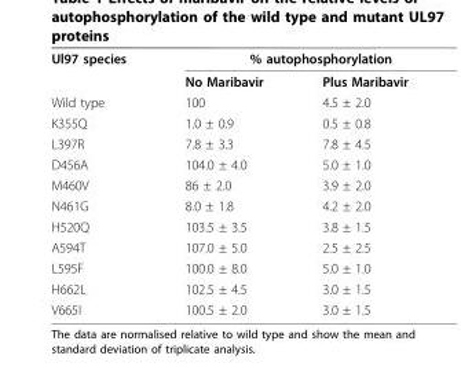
<table><tbody><tr><td rowspan="2">Ul97 species</td><td colspan="2">% autophosphorylation</td></tr><tr><td>No Maribavir</td><td>Plus Maribavir</td></tr><tr><td>Wild type</td><td>100</td><td>4.5 ± 2.0</td></tr><tr><td>K355Q</td><td>1.0 ± 0.9</td><td>0.5 ± 0.8</td></tr><tr><td>L397R</td><td>7.8 ± 3.3</td><td>7.8 ± 4.5</td></tr><tr><td>D456A</td><td>104.0 ± 4.0</td><td>5.0 ± 1.0</td></tr><tr><td>M460V</td><td>86 ± 2.0</td><td>3.9 ± 2.0</td></tr><tr><td>N461G</td><td>8.0 ± 1.8</td><td>4.2 ± 2.0</td></tr><tr><td>H520Q</td><td>103.5 ± 3.5</td><td>3.8 ± 1.5</td></tr><tr><td>A594T</td><td>107.0 ± 5.0</td><td>2.5 ± 2.5</td></tr><tr><td>L595F</td><td>100.0 ± 8.0</td><td>5.0 ± 1.0</td></tr><tr><td>H662L</td><td>102.5 ± 4.5</td><td>3.0 ± 1.5</td></tr><tr><td>V665I</td><td>100.5 ± 2.0</td><td>3.0 ± 1.5</td></tr></tbody></table>